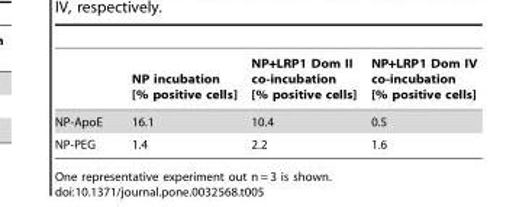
<table><thead><tr><td></td><td>NP incubation [% positive cells]</td><td>NP+LRP1 Dom II co-incubation [% positive cells]</td><td>NP+LRP1 Dom IV co-incubation [% positive cells]</td></tr></thead><tbody><tr><td>NP-ApoE</td><td>16.1</td><td>10.4</td><td>0.5</td></tr><tr><td>NP-PEG</td><td>1.4</td><td>2.2</td><td>1.6</td></tr></tbody></table>